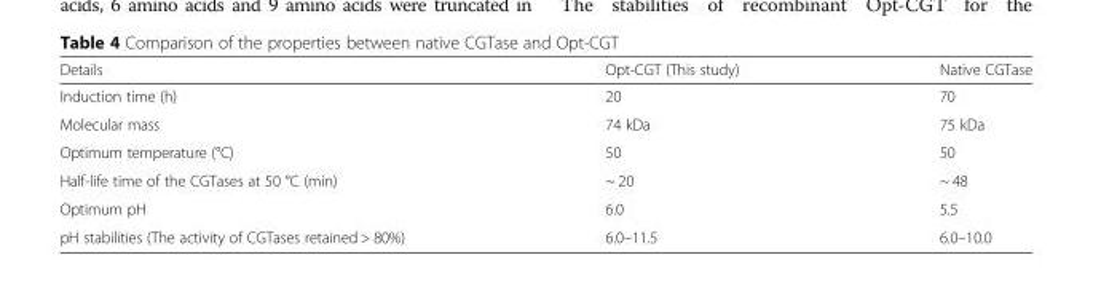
<table><thead><tr><td>Details</td><td>Opt-CGT (This study)</td><td>Native CGTase</td></tr></thead><tbody><tr><td>Induction time (h)</td><td>20</td><td>70</td></tr><tr><td>Molecular mass</td><td>74 kDa</td><td>75 kDa</td></tr><tr><td>Optimum temperature (°C)</td><td>50</td><td>50</td></tr><tr><td>Half-life time of the CGTases at 50 °C (min)</td><td>~ 20</td><td>~ 48</td></tr><tr><td>Optimum pH</td><td>6.0</td><td>5.5</td></tr><tr><td>pH stabilities (The activity of CGTases retained &gt; 80%)</td><td>6.0–11.5</td><td>6.0–10.0</td></tr></tbody></table>